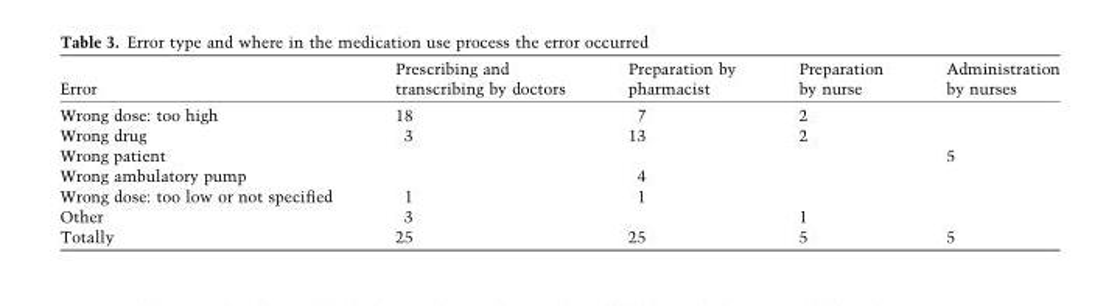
<table><thead><tr><td>Error</td><td>Prescribing and transcribing by doctors</td><td>Preparation by pharmacist</td><td>Preparation by nurse</td><td>Administration by nurses</td></tr></thead><tbody><tr><td>Wrong dose: too high</td><td>18</td><td>7</td><td>2</td><td></td></tr><tr><td>Wrong drug</td><td>3</td><td>13</td><td>2</td><td></td></tr><tr><td>Wrong patient</td><td></td><td></td><td></td><td>5</td></tr><tr><td>Wrong ambulatory pump</td><td></td><td>4</td><td></td><td></td></tr><tr><td>Wrong dose: too low or not specified</td><td>1</td><td>1</td><td></td><td></td></tr><tr><td>Other</td><td>3</td><td></td><td>1</td><td></td></tr><tr><td>Totally</td><td>25</td><td>25</td><td>5</td><td>5</td></tr></tbody></table>